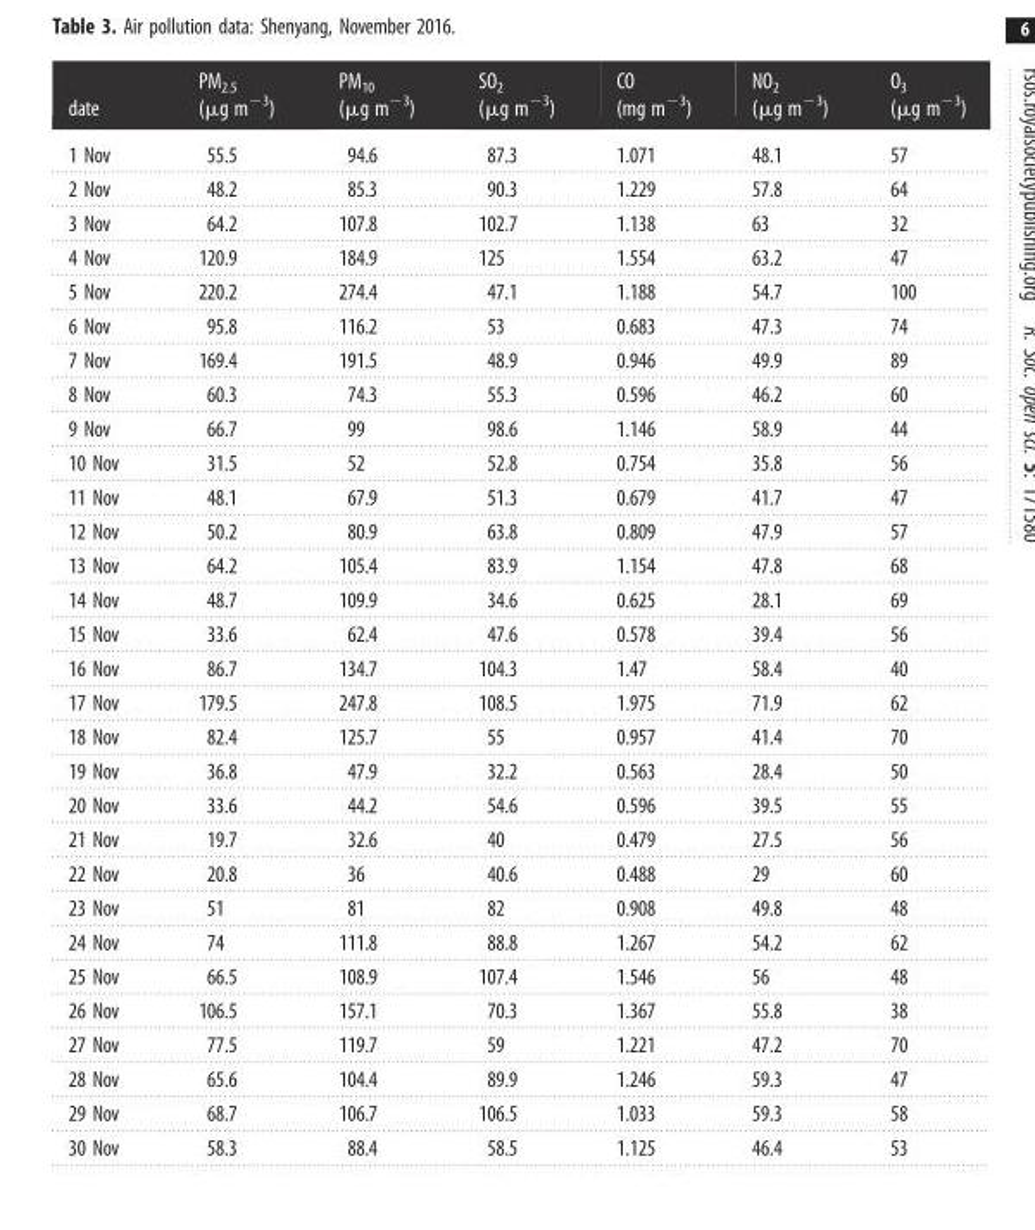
<table><thead><tr><td>date</td><td>PM<sub>2.5</sub> (μg m<sup>−3</sup>)</td><td>PM<sub>10</sub> (μg m<sup>−3</sup>)</td><td>SO<sub>2</sub> (μg m<sup>−3</sup>)</td><td>CO (mg m<sup>−3</sup>)</td><td>NO<sub>2</sub> (μg m<sup>−3</sup>)</td><td>O<sub>3</sub> (μg m<sup>−3</sup>)</td></tr></thead><tbody><tr><td>1 Nov</td><td>55.5</td><td>94.6</td><td>87.3</td><td>1.071</td><td>48.1</td><td>57</td></tr><tr><td>2 Nov</td><td>48.2</td><td>85.3</td><td>90.3</td><td>1.229</td><td>57.8</td><td>64</td></tr><tr><td>3 Nov</td><td>64.2</td><td>107.8</td><td>102.7</td><td>1.138</td><td>63</td><td>32</td></tr><tr><td>4 Nov</td><td>120.9</td><td>184.9</td><td>125</td><td>1.554</td><td>63.2</td><td>47</td></tr><tr><td>5 Nov</td><td>220.2</td><td>274.4</td><td>47.1</td><td>1.188</td><td>54.7</td><td>100</td></tr><tr><td>6 Nov</td><td>95.8</td><td>116.2</td><td>53</td><td>0.683</td><td>47.3</td><td>74</td></tr><tr><td>7 Nov</td><td>169.4</td><td>191.5</td><td>48.9</td><td>0.946</td><td>49.9</td><td>89</td></tr><tr><td>8 Nov</td><td>60.3</td><td>74.3</td><td>55.3</td><td>0.596</td><td>46.2</td><td>60</td></tr><tr><td>9 Nov</td><td>66.7</td><td>99</td><td>98.6</td><td>1.146</td><td>58.9</td><td>44</td></tr><tr><td>10 Nov</td><td>31.5</td><td>52</td><td>52.8</td><td>0.754</td><td>35.8</td><td>56</td></tr><tr><td>11 Nov</td><td>48.1</td><td>67.9</td><td>51.3</td><td>0.679</td><td>41.7</td><td>47</td></tr><tr><td>12 Nov</td><td>50.2</td><td>80.9</td><td>63.8</td><td>0.809</td><td>47.9</td><td>57</td></tr><tr><td>13 Nov</td><td>64.2</td><td>105.4</td><td>83.9</td><td>1.154</td><td>47.8</td><td>68</td></tr><tr><td>14 Nov</td><td>48.7</td><td>109.9</td><td>34.6</td><td>0.625</td><td>28.1</td><td>69</td></tr><tr><td>15 Nov</td><td>33.6</td><td>62.4</td><td>47.6</td><td>0.578</td><td>39.4</td><td>56</td></tr><tr><td>16 Nov</td><td>86.7</td><td>134.7</td><td>104.3</td><td>1.47</td><td>58.4</td><td>40</td></tr><tr><td>17 Nov</td><td>179.5</td><td>247.8</td><td>108.5</td><td>1.975</td><td>71.9</td><td>62</td></tr><tr><td>18 Nov</td><td>82.4</td><td>125.7</td><td>55</td><td>0.957</td><td>41.4</td><td>70</td></tr><tr><td>19 Nov</td><td>36.8</td><td>47.9</td><td>32.2</td><td>0.563</td><td>28.4</td><td>50</td></tr><tr><td>20 Nov</td><td>33.6</td><td>44.2</td><td>54.6</td><td>0.596</td><td>39.5</td><td>55</td></tr><tr><td>21 Nov</td><td>19.7</td><td>32.6</td><td>40</td><td>0.479</td><td>27.5</td><td>56</td></tr><tr><td>22 Nov</td><td>20.8</td><td>36</td><td>40.6</td><td>0.488</td><td>29</td><td>60</td></tr><tr><td>23 Nov</td><td>51</td><td>81</td><td>82</td><td>0.908</td><td>49.8</td><td>48</td></tr><tr><td>24 Nov</td><td>74</td><td>111.8</td><td>88.8</td><td>1.267</td><td>54.2</td><td>62</td></tr><tr><td>25 Nov</td><td>66.5</td><td>108.9</td><td>107.4</td><td>1.546</td><td>56</td><td>48</td></tr><tr><td>26 Nov</td><td>106.5</td><td>157.1</td><td>70.3</td><td>1.367</td><td>55.8</td><td>38</td></tr><tr><td>27 Nov</td><td>77.5</td><td>119.7</td><td>59</td><td>1.221</td><td>47.2</td><td>70</td></tr><tr><td>28 Nov</td><td>65.6</td><td>104.4</td><td>89.9</td><td>1.246</td><td>59.3</td><td>47</td></tr><tr><td>29 Nov</td><td>68.7</td><td>106.7</td><td>106.5</td><td>1.033</td><td>59.3</td><td>58</td></tr><tr><td>30 Nov</td><td>58.3</td><td>88.4</td><td>58.5</td><td>1.125</td><td>46.4</td><td>53</td></tr></tbody></table>